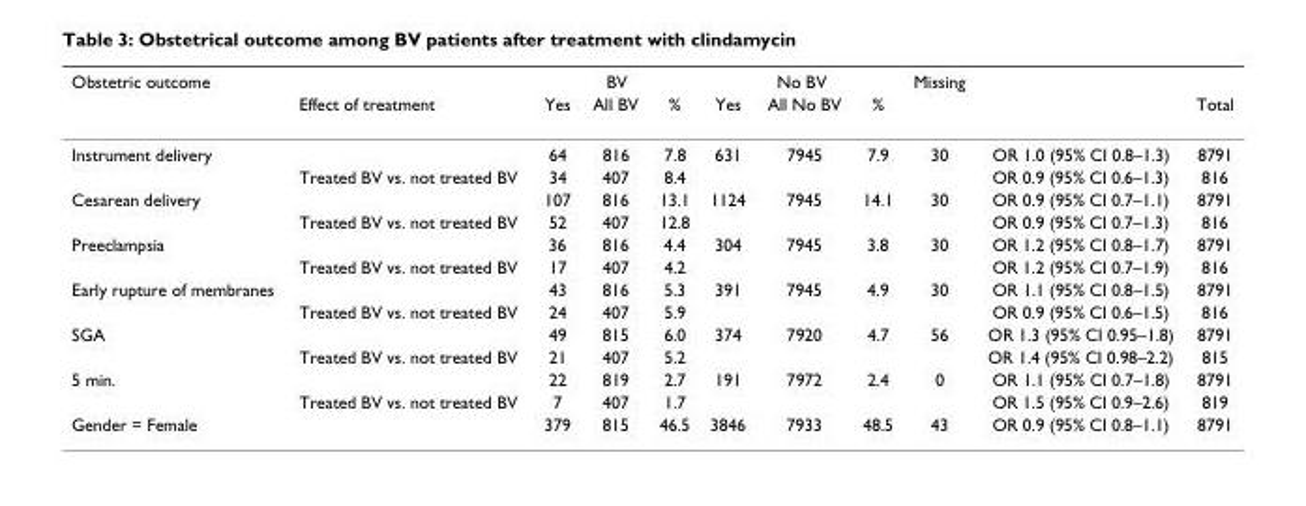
<table><thead><tr><td rowspan="2">Obstetric outcome</td><td rowspan="2">Effect of treatment</td><td colspan="3">BV</td><td colspan="3">No BV</td><td rowspan="2">Missing</td><td rowspan="2"></td><td rowspan="2">Total</td></tr><tr><td>Yes</td><td>All BV</td><td>%</td><td>Yes</td><td>All No BV</td><td>%</td></tr></thead><tbody><tr><td rowspan="2">Instrument delivery</td><td></td><td>64</td><td>816</td><td>7.8</td><td>631</td><td>7945</td><td>7.9</td><td>30</td><td>OR 1.0 (95% CI 0.8–1.3)</td><td>8791</td></tr><tr><td>Treated BV vs. not treated BV</td><td>34</td><td>407</td><td>8.4</td><td></td><td></td><td></td><td></td><td>OR 0.9 (95% CI 0.6–1.3)</td><td>816</td></tr><tr><td rowspan="2">Cesarean delivery</td><td></td><td>107</td><td>816</td><td>13.1</td><td>1124</td><td>7945</td><td>14.1</td><td>30</td><td>OR 0.9 (95% CI 0.7–1.1)</td><td>8791</td></tr><tr><td>Treated BV vs. not treated BV</td><td>52</td><td>407</td><td>12.8</td><td></td><td></td><td></td><td></td><td>OR 0.9 (95% CI 0.7–1.3)</td><td>816</td></tr><tr><td rowspan="2">Preeclampsia</td><td></td><td>36</td><td>816</td><td>4.4</td><td>304</td><td>7945</td><td>3.8</td><td>30</td><td>OR 1.2 (95% CI 0.8–1.7)</td><td>8791</td></tr><tr><td>Treated BV vs. not treated BV</td><td>17</td><td>407</td><td>4.2</td><td></td><td></td><td></td><td></td><td>OR 1.2 (95% CI 0.7–1.9)</td><td>816</td></tr><tr><td rowspan="2">Early rupture of membranes</td><td></td><td>43</td><td>816</td><td>5.3</td><td>391</td><td>7945</td><td>4.9</td><td>30</td><td>OR 1.1 (95% CI 0.8–1.5)</td><td>8791</td></tr><tr><td>Treated BV vs. not treated BV</td><td>24</td><td>407</td><td>5.9</td><td></td><td></td><td></td><td></td><td>OR 0.9 (95% CI 0.6–1.5)</td><td>816</td></tr><tr><td rowspan="2">SGA</td><td></td><td>49</td><td>815</td><td>6.0</td><td>374</td><td>7920</td><td>4.7</td><td>56</td><td>OR 1.3 (95% CI 0.95–1.8)</td><td>8791</td></tr><tr><td>Treated BV vs. not treated BV</td><td>21</td><td>407</td><td>5.2</td><td></td><td></td><td></td><td></td><td>OR 1.4 (95% CI 0.98–2.2)</td><td>815</td></tr><tr><td rowspan="2">5 min.</td><td></td><td>22</td><td>819</td><td>2.7</td><td>191</td><td>7972</td><td>2.4</td><td>0</td><td>OR 1.1 (95% CI 0.7–1.8)</td><td>8791</td></tr><tr><td>Treated BV vs. not treated BV</td><td>7</td><td>407</td><td>1.7</td><td></td><td></td><td></td><td></td><td>OR 1.5 (95% CI 0.9–2.6)</td><td>819</td></tr><tr><td>Gender = Female</td><td></td><td>379</td><td>815</td><td>46.5</td><td>3846</td><td>7933</td><td>48.5</td><td>43</td><td>OR 0.9 (95% CI 0.8–1.1)</td><td>8791</td></tr></tbody></table>